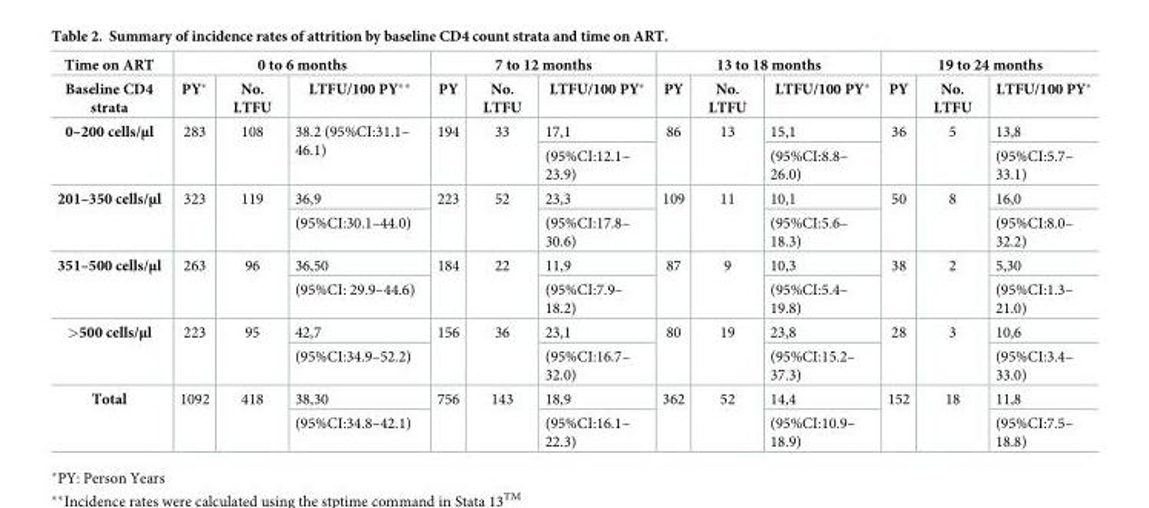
<table><thead><tr><td rowspan="2">Time on ART Baseline CD4 strata</td><td colspan="3">0 to 6 months</td><td colspan="3">7 to 12 months</td><td colspan="3">13 to 18 months</td><td colspan="3">19 to 24 months</td></tr><tr><td>PY*</td><td>No. LTFU</td><td>LTFU/100 PY**</td><td>PY</td><td>No. LTFU</td><td>LTFU/100 PY*</td><td>PY</td><td>No. LTFU</td><td>LTFU/100 PY*</td><td>PY</td><td>No. LTFU</td><td>LTFU/100 PY*</td></tr></thead><tbody><tr><td rowspan="2">0–200 cells/μl</td><td rowspan="2">283</td><td rowspan="2">108</td><td rowspan="2">38.2 (95%CI:31.1– 46.1)</td><td rowspan="2">194</td><td rowspan="2">33</td><td>17,1</td><td rowspan="2">86</td><td rowspan="2">13</td><td>15,1</td><td rowspan="2">36</td><td rowspan="2">5</td><td>13,8</td></tr><tr><td>(95%CI:12.1– 23.9)</td><td>(95%CI:8.8– 26.0)</td><td>(95%CI:5.7– 33.1)</td></tr><tr><td rowspan="2">201–350 cells/μl</td><td rowspan="2">323</td><td rowspan="2">119</td><td>36,9</td><td rowspan="2">223</td><td rowspan="2">52</td><td>23,3</td><td rowspan="2">109</td><td rowspan="2">11</td><td>10,1</td><td rowspan="2">50</td><td rowspan="2">8</td><td>16,0</td></tr><tr><td>(95%CI:30.1–44.0)</td><td>(95%CI:17.8– 30.6)</td><td>(95%CI:5.6– 18.3)</td><td>(95%CI:8.0– 32.2)</td></tr><tr><td rowspan="2">351–500 cells/μl</td><td rowspan="2">263</td><td rowspan="2">96</td><td>36,50</td><td rowspan="2">184</td><td rowspan="2">22</td><td>11,9</td><td rowspan="2">87</td><td rowspan="2">9</td><td>10,3</td><td rowspan="2">38</td><td rowspan="2">2</td><td>5,30</td></tr><tr><td>(95%CI: 29.9–44.6)</td><td>(95%CI:7.9– 18.2)</td><td>(95%CI:5.4– 19.8)</td><td>(95%CI:1.3– 21.0)</td></tr><tr><td rowspan="2">&gt;500 cells/μl</td><td rowspan="2">223</td><td rowspan="2">95</td><td>42,7</td><td rowspan="2">156</td><td rowspan="2">36</td><td>23,1</td><td rowspan="2">80</td><td rowspan="2">19</td><td>23,8</td><td rowspan="2">28</td><td rowspan="2">3</td><td>10,6</td></tr><tr><td>(95%CI:34.9–52.2)</td><td>(95%CI:16.7– 32.0)</td><td>(95%CI:15.2– 37.3)</td><td>(95%CI:3.4– 33.0)</td></tr><tr><td rowspan="2">Total</td><td rowspan="2">1092</td><td rowspan="2">418</td><td>38,30</td><td rowspan="2">756</td><td rowspan="2">143</td><td>18,9</td><td rowspan="2">362</td><td rowspan="2">52</td><td>14,4</td><td rowspan="2">152</td><td rowspan="2">18</td><td>11,8</td></tr><tr><td>(95%CI:34.8–42.1)</td><td>(95%CI:16.1– 22.3)</td><td>(95%CI:10.9– 18.9)</td><td>(95%CI:7.5– 18.8)</td></tr></tbody></table>